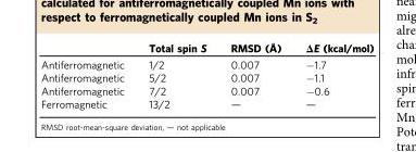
<table><thead><tr><td></td><td>Total spin S</td><td>RMSD (Å)</td><td>ΔE (kcal/mol)</td></tr></thead><tbody><tr><td>Antiferromagnetic</td><td>1/2</td><td>0.007</td><td>−1.7</td></tr><tr><td>Antiferromagnetic</td><td>5/2</td><td>0.007</td><td>−1.1</td></tr><tr><td>Antiferromagnetic</td><td>7/2</td><td>0.007</td><td>−0.6</td></tr><tr><td>Ferromagnetic</td><td>13/2</td><td>—</td><td>—</td></tr></tbody></table>